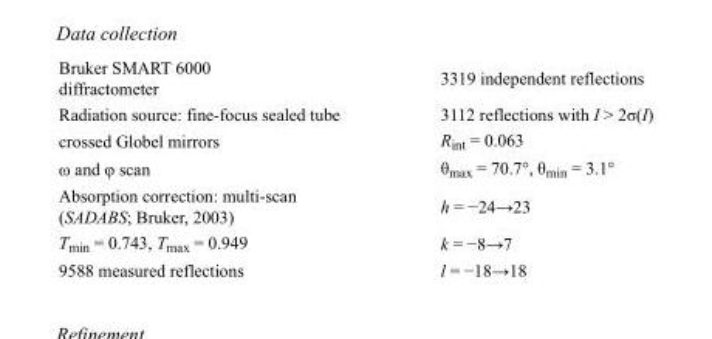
<table><tbody><tr><td>Bruker SMART 6000 diffractometer</td><td>3319 independent reflections</td></tr><tr><td>Radiation source: fine-focus sealed tube</td><td>3112 reflections with I &gt; 2σ(I)</td></tr><tr><td>crossed Globel mirrors</td><td>R<sub>int</sub> = 0.063</td></tr><tr><td>ω and φ scan</td><td>θ<sub>max</sub> = 70.7°, θ<sub>min</sub> = 3.1°</td></tr><tr><td>Absorption correction: multi-scan (SADABS; Bruker, 2003)</td><td>h = −24→23</td></tr><tr><td>T<sub>min</sub> = 0.743, T<sub>max</sub> = 0.949</td><td>k = −8→7</td></tr><tr><td>9588 measured reflections</td><td>l = −18→18</td></tr></tbody></table>